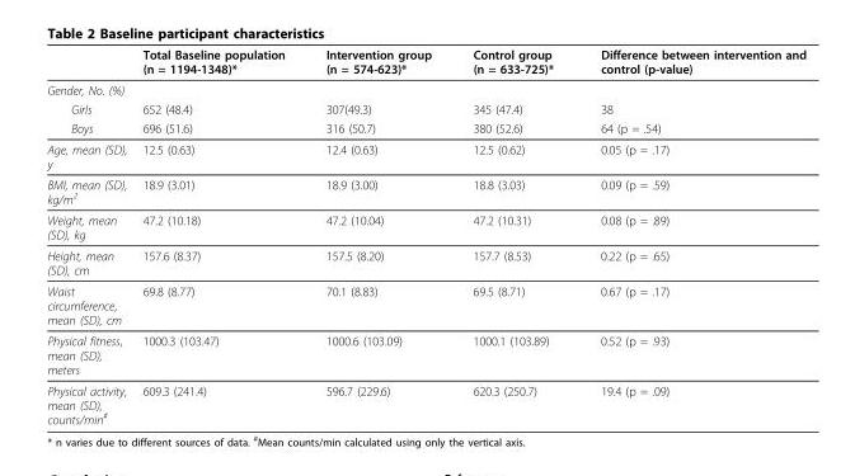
<table><thead><tr><td></td><td>Total Baseline population (n = 1194-1348)*</td><td>Intervention group (n = 574-623)*</td><td>Control group (n = 633-725)*</td><td>Difference between intervention and control (p-value)</td></tr></thead><tbody><tr><td colspan="5">Gender, No. (%)</td></tr><tr><td>Girls</td><td>652 (48.4)</td><td>307(49.3)</td><td>345 (47.4)</td><td>38</td></tr><tr><td>Boys</td><td>696 (51.6)</td><td>316 (50.7)</td><td>380 (52.6)</td><td>64 (p = .54)</td></tr><tr><td>Age, mean (SD), y</td><td>12.5 (0.63)</td><td>12.4 (0.63)</td><td>12.5 (0.62)</td><td>0.05 (p = .17)</td></tr><tr><td>BMI, mean (SD), kg/m<sup>2</sup></td><td>18.9 (3.01)</td><td>18.9 (3.00)</td><td>18.8 (3.03)</td><td>0.09 (p = .59)</td></tr><tr><td>Weight, mean (SD), kg</td><td>47.2 (10.18)</td><td>47.2 (10.04)</td><td>47.2 (10.31)</td><td>0.08 (p = .89)</td></tr><tr><td>Height, mean (SD), cm</td><td>157.6 (8.37)</td><td>157.5 (8.20)</td><td>157.7 (8.53)</td><td>0.22 (p = .65)</td></tr><tr><td>Waist circumference, mean (SD), cm</td><td>69.8 (8.77)</td><td>70.1 (8.83)</td><td>69.5 (8.71)</td><td>0.67 (p = .17)</td></tr><tr><td>Physical fitness, mean (SD), meters</td><td>1000.3 (103.47)</td><td>1000.6 (103.09)</td><td>1000.1 (103.89)</td><td>0.52 (p = .93)</td></tr><tr><td>Physical activity, mean (SD), counts/min<sup>#</sup></td><td>609.3 (241.4)</td><td>596.7 (229.6)</td><td>620.3 (250.7)</td><td>19.4 (p = .09)</td></tr></tbody></table>